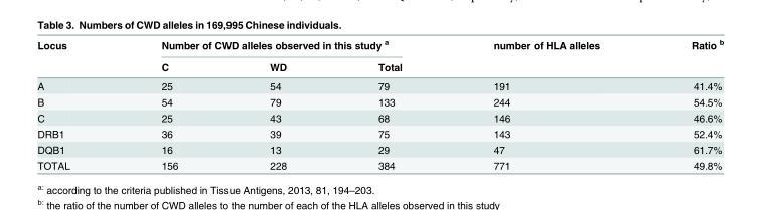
<table><thead><tr><td rowspan="2">Locus</td><td colspan="3">Number of CWD alleles observed in this study <sup>a</sup></td><td rowspan="2">number of HLA alleles</td><td rowspan="2">Ratio <sup>b</sup></td></tr><tr><td>C</td><td>WD</td><td>Total</td></tr></thead><tbody><tr><td>A</td><td>25</td><td>54</td><td>79</td><td>191</td><td>41.4%</td></tr><tr><td>B</td><td>54</td><td>79</td><td>133</td><td>244</td><td>54.5%</td></tr><tr><td>C</td><td>25</td><td>43</td><td>68</td><td>146</td><td>46.6%</td></tr><tr><td>DRB1</td><td>36</td><td>39</td><td>75</td><td>143</td><td>52.4%</td></tr><tr><td>DQB1</td><td>16</td><td>13</td><td>29</td><td>47</td><td>61.7%</td></tr><tr><td>TOTAL</td><td>156</td><td>228</td><td>384</td><td>771</td><td>49.8%</td></tr></tbody></table>